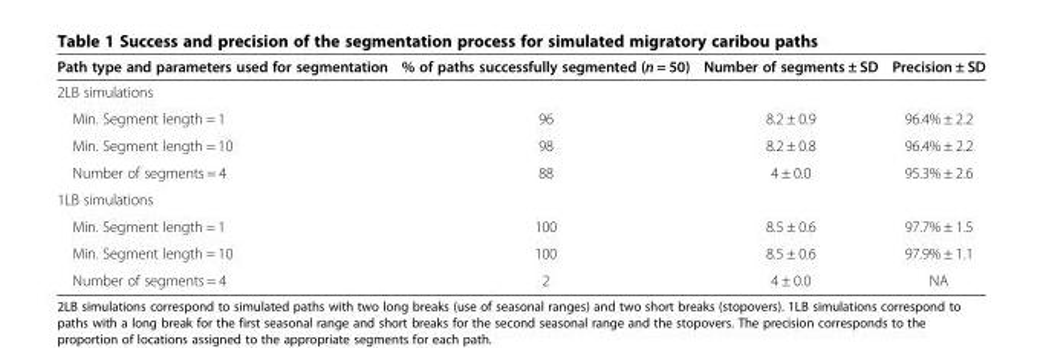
<table><thead><tr><td>Path type and parameters used for segmentation</td><td>% of paths successfully segmented (n = 50)</td><td>Number of segments ± SD</td><td>Precision ± SD</td></tr></thead><tbody><tr><td colspan="4">2LB simulations</td></tr><tr><td>Min. Segment length = 1</td><td>96</td><td>8.2 ± 0.9</td><td>96.4% ± 2.2</td></tr><tr><td>Min. Segment length = 10</td><td>98</td><td>8.2 ± 0.8</td><td>96.4% ± 2.2</td></tr><tr><td>Number of segments = 4</td><td>88</td><td>4 ± 0.0</td><td>95.3% ± 2.6</td></tr><tr><td colspan="4">1LB simulations</td></tr><tr><td>Min. Segment length = 1</td><td>100</td><td>8.5 ± 0.6</td><td>97.7% ± 1.5</td></tr><tr><td>Min. Segment length = 10</td><td>100</td><td>8.5 ± 0.6</td><td>97.9% ± 1.1</td></tr><tr><td>Number of segments = 4</td><td>2</td><td>4 ± 0.0</td><td>NA</td></tr></tbody></table>